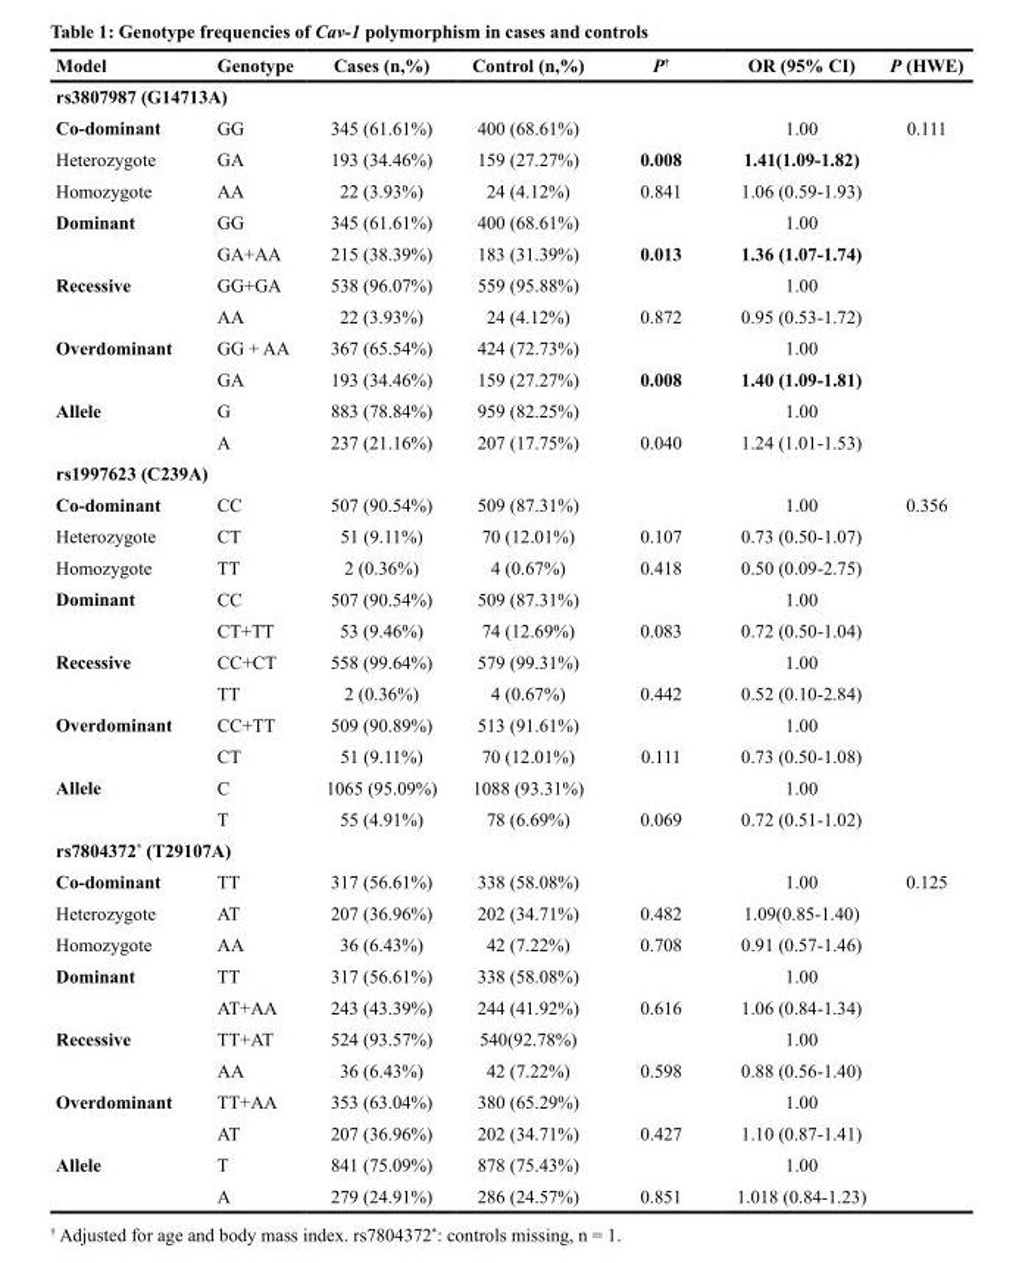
<table><thead><tr><td>Model</td><td>Genotype</td><td>Cases (n,%)</td><td>Control (n,%)</td><td>P<sup>†</sup></td><td>OR (95% CI)</td><td>P (HWE)</td></tr></thead><tbody><tr><td colspan="7">rs3807987 (G14713A)</td></tr><tr><td>Co-dominant</td><td>GG</td><td>345 (61.61%)</td><td>400 (68.61%)</td><td></td><td>1.00</td><td>0.111</td></tr><tr><td>Heterozygote</td><td>GA</td><td>193 (34.46%)</td><td>159 (27.27%)</td><td>0.008</td><td>1.41(1.09-1.82)</td><td></td></tr><tr><td>Homozygote</td><td>AA</td><td>22 (3.93%)</td><td>24 (4.12%)</td><td>0.841</td><td>1.06 (0.59-1.93)</td><td></td></tr><tr><td rowspan="2">Dominant</td><td>GG</td><td>345 (61.61%)</td><td>400 (68.61%)</td><td></td><td>1.00</td><td></td></tr><tr><td>GA+AA</td><td>215 (38.39%)</td><td>183 (31.39%)</td><td>0.013</td><td>1.36 (1.07-1.74)</td><td></td></tr><tr><td rowspan="2">Recessive</td><td>GG+GA</td><td>538 (96.07%)</td><td>559 (95.88%)</td><td></td><td>1.00</td><td></td></tr><tr><td>AA</td><td>22 (3.93%)</td><td>24 (4.12%)</td><td>0.872</td><td>0.95 (0.53-1.72)</td><td></td></tr><tr><td rowspan="2">Overdominant</td><td>GG + AA</td><td>367 (65.54%)</td><td>424 (72.73%)</td><td></td><td>1.00</td><td></td></tr><tr><td>GA</td><td>193 (34.46%)</td><td>159 (27.27%)</td><td>0.008</td><td>1.40 (1.09-1.81)</td><td></td></tr><tr><td rowspan="2">Allele</td><td>G</td><td>883 (78.84%)</td><td>959 (82.25%)</td><td></td><td>1.00</td><td></td></tr><tr><td>A</td><td>237 (21.16%)</td><td>207 (17.75%)</td><td>0.040</td><td>1.24 (1.01-1.53)</td><td></td></tr><tr><td colspan="7">rs1997623 (C239A)</td></tr><tr><td>Co-dominant</td><td>CC</td><td>507 (90.54%)</td><td>509 (87.31%)</td><td></td><td>1.00</td><td>0.356</td></tr><tr><td>Heterozygote</td><td>CT</td><td>51 (9.11%)</td><td>70 (12.01%)</td><td>0.107</td><td>0.73 (0.50-1.07)</td><td></td></tr><tr><td>Homozygote</td><td>TT</td><td>2 (0.36%)</td><td>4 (0.67%)</td><td>0.418</td><td>0.50 (0.09-2.75)</td><td></td></tr><tr><td rowspan="2">Dominant</td><td>CC</td><td>507 (90.54%)</td><td>509 (87.31%)</td><td></td><td>1.00</td><td></td></tr><tr><td>CT+TT</td><td>53 (9.46%)</td><td>74 (12.69%)</td><td>0.083</td><td>0.72 (0.50-1.04)</td><td></td></tr><tr><td rowspan="2">Recessive</td><td>CC+CT</td><td>558 (99.64%)</td><td>579 (99.31%)</td><td></td><td>1.00</td><td></td></tr><tr><td>TT</td><td>2 (0.36%)</td><td>4 (0.67%)</td><td>0.442</td><td>0.52 (0.10-2.84)</td><td></td></tr><tr><td rowspan="2">Overdominant</td><td>CC+TT</td><td>509 (90.89%)</td><td>513 (91.61%)</td><td></td><td>1.00</td><td></td></tr><tr><td>CT</td><td>51 (9.11%)</td><td>70 (12.01%)</td><td>0.111</td><td>0.73 (0.50-1.08)</td><td></td></tr><tr><td rowspan="2">Allele</td><td>C</td><td>1065 (95.09%)</td><td>1088 (93.31%)</td><td></td><td>1.00</td><td></td></tr><tr><td>T</td><td>55 (4.91%)</td><td>78 (6.69%)</td><td>0.069</td><td>0.72 (0.51-1.02)</td><td></td></tr><tr><td colspan="7">rs7804372* (T29107A)</td></tr><tr><td>Co-dominant</td><td>TT</td><td>317 (56.61%)</td><td>338 (58.08%)</td><td></td><td>1.00</td><td>0.125</td></tr><tr><td>Heterozygote</td><td>AT</td><td>207 (36.96%)</td><td>202 (34.71%)</td><td>0.482</td><td>1.09(0.85-1.40)</td><td></td></tr><tr><td>Homozygote</td><td>AA</td><td>36 (6.43%)</td><td>42 (7.22%)</td><td>0.708</td><td>0.91 (0.57-1.46)</td><td></td></tr><tr><td rowspan="2">Dominant</td><td>TT</td><td>317 (56.61%)</td><td>338 (58.08%)</td><td></td><td>1.00</td><td></td></tr><tr><td>AT+AA</td><td>243 (43.39%)</td><td>244 (41.92%)</td><td>0.616</td><td>1.06 (0.84-1.34)</td><td></td></tr><tr><td rowspan="2">Recessive</td><td>TT+AT</td><td>524 (93.57%)</td><td>540(92.78%)</td><td></td><td>1.00</td><td></td></tr><tr><td>AA</td><td>36 (6.43%)</td><td>42 (7.22%)</td><td>0.598</td><td>0.88 (0.56-1.40)</td><td></td></tr><tr><td rowspan="2">Overdominant</td><td>TT+AA</td><td>353 (63.04%)</td><td>380 (65.29%)</td><td></td><td>1.00</td><td></td></tr><tr><td>AT</td><td>207 (36.96%)</td><td>202 (34.71%)</td><td>0.427</td><td>1.10 (0.87-1.41)</td><td></td></tr><tr><td rowspan="2">Allele</td><td>T</td><td>841 (75.09%)</td><td>878 (75.43%)</td><td></td><td>1.00</td><td></td></tr><tr><td>A</td><td>279 (24.91%)</td><td>286 (24.57%)</td><td>0.851</td><td>1.018 (0.84-1.23)</td><td></td></tr></tbody></table>